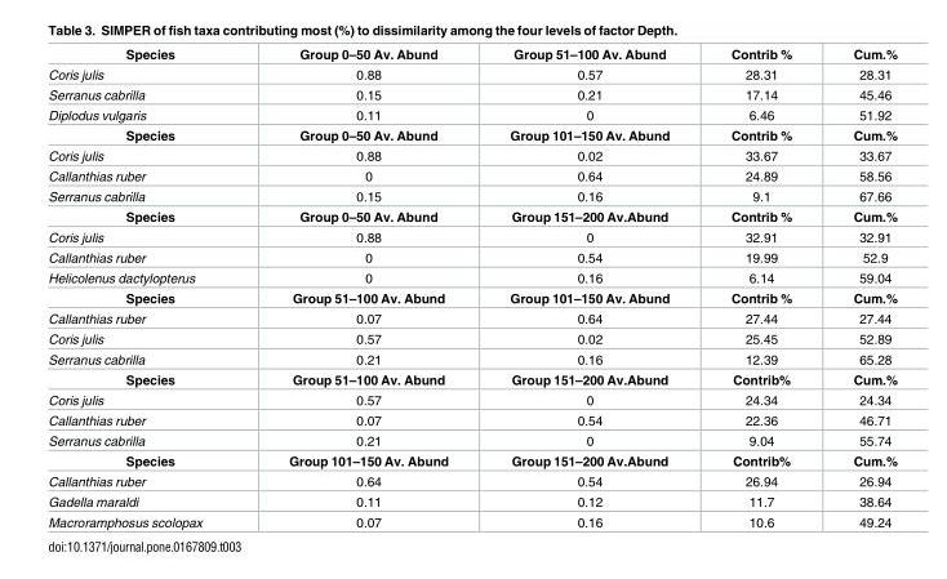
<table><tbody><tr><td>Species</td><td>Group 0–50 Av. Abund</td><td>Group 51–100 Av. Abund</td><td>Contrib %</td><td>Cum.%</td></tr><tr><td>Coris julis</td><td>0.88</td><td>0.57</td><td>28.31</td><td>28.31</td></tr><tr><td>Serranus cabrilla</td><td>0.15</td><td>0.21</td><td>17.14</td><td>45.46</td></tr><tr><td>Diplodus vulgaris</td><td>0.11</td><td>0</td><td>6.46</td><td>51.92</td></tr><tr><td>Species</td><td>Group 0–50 Av. Abund</td><td>Group 101–150 Av. Abund</td><td>Contrib %</td><td>Cum.%</td></tr><tr><td>Coris julis</td><td>0.88</td><td>0.02</td><td>33.67</td><td>33.67</td></tr><tr><td>Callanthias ruber</td><td>0</td><td>0.64</td><td>24.89</td><td>58.56</td></tr><tr><td>Serranus cabrilla</td><td>0.15</td><td>0.16</td><td>9.1</td><td>67.66</td></tr><tr><td>Species</td><td>Group 0–50 Av. Abund</td><td>Group 151–200 Av.Abund</td><td>Contrib %</td><td>Cum.%</td></tr><tr><td>Coris julis</td><td>0.88</td><td>0</td><td>32.91</td><td>32.91</td></tr><tr><td>Callanthias ruber</td><td>0</td><td>0.54</td><td>19.99</td><td>52.9</td></tr><tr><td>Helicolenus dactylopterus</td><td>0</td><td>0.16</td><td>6.14</td><td>59.04</td></tr><tr><td>Species</td><td>Group 51–100 Av. Abund</td><td>Group 101–150 Av. Abund</td><td>Contrib %</td><td>Cum.%</td></tr><tr><td>Callanthias ruber</td><td>0.07</td><td>0.64</td><td>27.44</td><td>27.44</td></tr><tr><td>Coris julis</td><td>0.57</td><td>0.02</td><td>25.45</td><td>52.89</td></tr><tr><td>Serranus cabrilla</td><td>0.21</td><td>0.16</td><td>12.39</td><td>65.28</td></tr><tr><td>Species</td><td>Group 51–100 Av. Abund</td><td>Group 151–200 Av.Abund</td><td>Contrib%</td><td>Cum.%</td></tr><tr><td>Coris julis</td><td>0.57</td><td>0</td><td>24.34</td><td>24.34</td></tr><tr><td>Callanthias ruber</td><td>0.07</td><td>0.54</td><td>22.36</td><td>46.71</td></tr><tr><td>Serranus cabrilla</td><td>0.21</td><td>0</td><td>9.04</td><td>55.74</td></tr><tr><td>Species</td><td>Group 101–150 Av. Abund</td><td>Group 151–200 Av.Abund</td><td>Contrib%</td><td>Cum.%</td></tr><tr><td>Callanthias ruber</td><td>0.64</td><td>0.54</td><td>26.94</td><td>26.94</td></tr><tr><td>Gadella maraldi</td><td>0.11</td><td>0.12</td><td>11.7</td><td>38.64</td></tr><tr><td>Macroramphosus scolopax</td><td>0.07</td><td>0.16</td><td>10.6</td><td>49.24</td></tr></tbody></table>